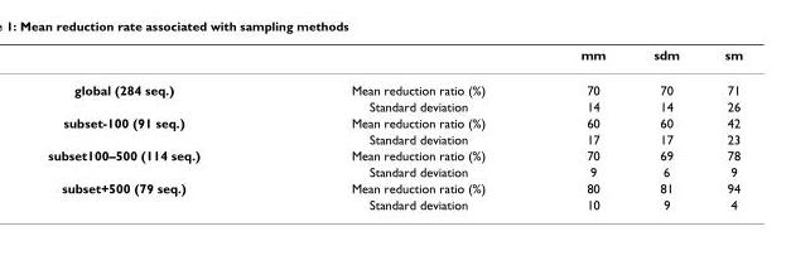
<table><thead><tr><td></td><td></td><td>mm</td><td>sdm</td><td>sm</td></tr></thead><tbody><tr><td rowspan="2">global (284 seq.)</td><td>Mean reduction ratio (%)</td><td>70</td><td>70</td><td>71</td></tr><tr><td>Standard deviation</td><td>14</td><td>14</td><td>26</td></tr><tr><td rowspan="2">subset-100 (91 seq.)</td><td>Mean reduction ratio (%)</td><td>60</td><td>60</td><td>42</td></tr><tr><td>Standard deviation</td><td>17</td><td>17</td><td>23</td></tr><tr><td rowspan="2">subset100–500 (114 seq.)</td><td>Mean reduction ratio (%)</td><td>70</td><td>69</td><td>78</td></tr><tr><td>Standard deviation</td><td>9</td><td>6</td><td>9</td></tr><tr><td rowspan="2">subset+500 (79 seq.)</td><td>Mean reduction ratio (%)</td><td>80</td><td>81</td><td>94</td></tr><tr><td>Standard deviation</td><td>10</td><td>9</td><td>4</td></tr></tbody></table>